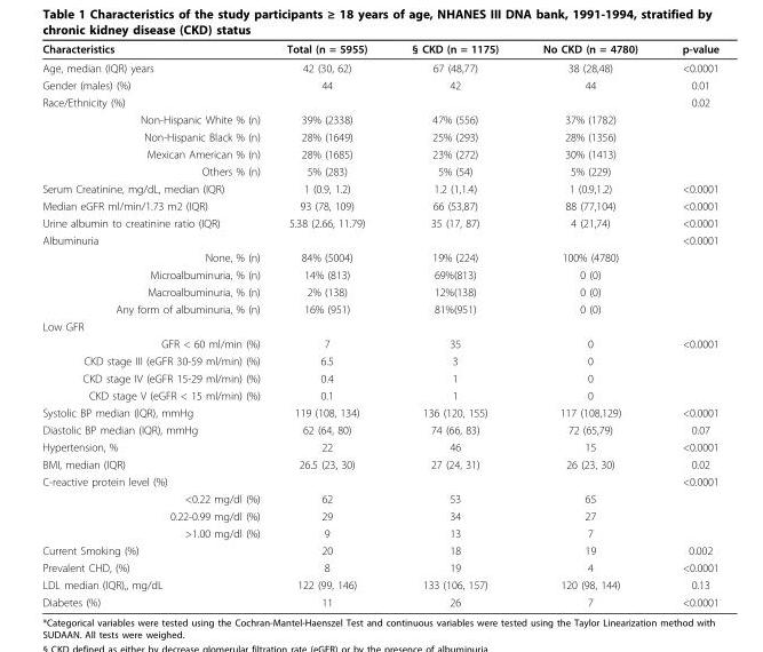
<table><thead><tr><td>Characteristics</td><td>Total (n = 5955)</td><td>§ CKD (n = 1175)</td><td>No CKD (n = 4780)</td><td>p-value</td></tr></thead><tbody><tr><td>Age, median (IQR) years</td><td>42 (30, 62)</td><td>67 (48,77)</td><td>38 (28,48)</td><td>&lt;0.0001</td></tr><tr><td>Gender (males) (%)</td><td>44</td><td>42</td><td>44</td><td>0.01</td></tr><tr><td>Race/Ethnicity (%)</td><td></td><td></td><td></td><td>0.02</td></tr><tr><td>Non-Hispanic White % (n)</td><td>39% (2338)</td><td>47% (556)</td><td>37% (1782)</td><td></td></tr><tr><td>Non-Hispanic Black % (n)</td><td>28% (1649)</td><td>25% (293)</td><td>28% (1356)</td><td></td></tr><tr><td>Mexican American % (n)</td><td>28% (1685)</td><td>23% (272)</td><td>30% (1413)</td><td></td></tr><tr><td>Others % (n)</td><td>5% (283)</td><td>5% (54)</td><td>5% (229)</td><td></td></tr><tr><td>Serum Creatinine, mg/dL, median (IQR)</td><td>1 (0.9, 1.2)</td><td>1.2 (1,1.4)</td><td>1 (0.9,1.2)</td><td>&lt;0.0001</td></tr><tr><td>Median eGFR ml/min/1.73 m2 (IQR)</td><td>93 (78, 109)</td><td>66 (53,87)</td><td>88 (77,104)</td><td>&lt;0.0001</td></tr><tr><td>Urine albumin to creatinine ratio (IQR)</td><td>5.38 (2.66, 11.79)</td><td>35 (17, 87)</td><td>4 (21,74)</td><td>&lt;0.0001</td></tr><tr><td>Albuminuria</td><td></td><td></td><td></td><td>&lt;0.0001</td></tr><tr><td>None, % (n)</td><td>84% (5004)</td><td>19% (224)</td><td>100% (4780)</td><td></td></tr><tr><td>Microalbuminuria, % (n)</td><td>14% (813)</td><td>69%(813)</td><td>0 (0)</td><td></td></tr><tr><td>Macroalbuminuria, % (n)</td><td>2% (138)</td><td>12%(138)</td><td>0 (0)</td><td></td></tr><tr><td>Any form of albuminuria, % (n)</td><td>16% (951)</td><td>81%(951)</td><td>0 (0)</td><td></td></tr><tr><td colspan="5">Low GFR</td></tr><tr><td>GFR &lt; 60 ml/min (%)</td><td>7</td><td>35</td><td>0</td><td>&lt;0.0001</td></tr><tr><td>CKD stage III (eGFR 30-59 ml/min) (%)</td><td>6.5</td><td>3</td><td>0</td><td></td></tr><tr><td>CKD stage IV (eGFR 15-29 ml/min) (%)</td><td>0.4</td><td>1</td><td>0</td><td></td></tr><tr><td>CKD stage V (eGFR &lt; 15 ml/min) (%)</td><td>0.1</td><td>1</td><td>0</td><td></td></tr><tr><td>Systolic BP median (IQR), mmHg</td><td>119 (108, 134)</td><td>136 (120, 155)</td><td>117 (108,129)</td><td>&lt;0.0001</td></tr><tr><td>Diastolic BP median (IQR), mmHg</td><td>62 (64, 80)</td><td>74 (66, 83)</td><td>72 (65,79)</td><td>0.07</td></tr><tr><td>Hypertension, %</td><td>22</td><td>46</td><td>15</td><td>&lt;0.0001</td></tr><tr><td>BMI, median (IQR)</td><td>26.5 (23, 30)</td><td>27 (24, 31)</td><td>26 (23, 30)</td><td>0.02</td></tr><tr><td>C-reactive protein level (%)</td><td></td><td></td><td></td><td>&lt;0.0001</td></tr><tr><td>&lt;0.22 mg/dl (%)</td><td>62</td><td>53</td><td>65</td><td></td></tr><tr><td>0.22-0.99 mg/dl (%)</td><td>29</td><td>34</td><td>27</td><td></td></tr><tr><td>&gt;1.00 mg/dl (%)</td><td>9</td><td>13</td><td>7</td><td></td></tr><tr><td>Current Smoking (%)</td><td>20</td><td>18</td><td>19</td><td>0.002</td></tr><tr><td>Prevalent CHD, (%)</td><td>8</td><td>19</td><td>4</td><td>&lt;0.0001</td></tr><tr><td>LDL median (IQR),, mg/dL</td><td>122 (99, 146)</td><td>133 (106, 157)</td><td>120 (98, 144)</td><td>0.13</td></tr><tr><td>Diabetes (%)</td><td>11</td><td>26</td><td>7</td><td>&lt;0.0001</td></tr></tbody></table>